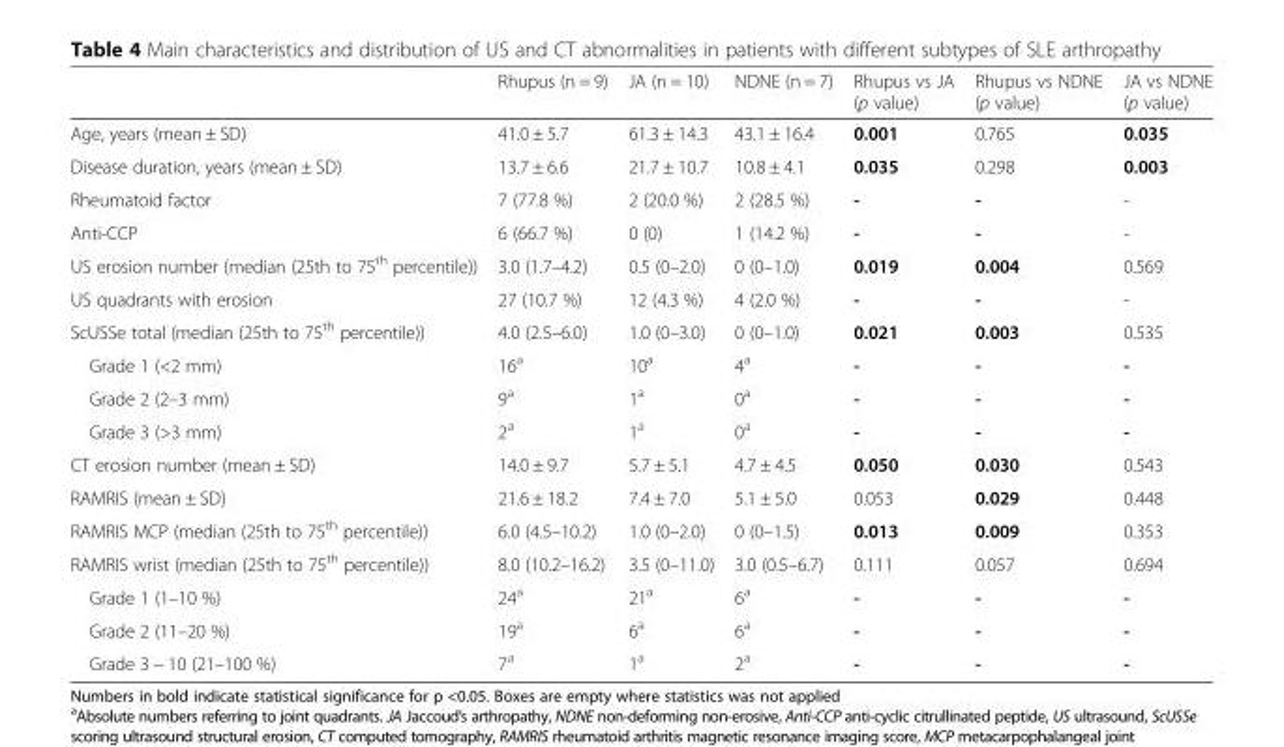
<table><thead><tr><td></td><td>Rhupus (n = 9)</td><td>JA (n = 10)</td><td>NDNE (n = 7)</td><td>Rhupus vs JA (p value)</td><td>Rhupus vs NDNE (p value)</td><td>JA vs NDNE (p value)</td></tr></thead><tbody><tr><td>Age, years (mean ± SD)</td><td>41.0 ± 5.7</td><td>61.3 ± 14.3</td><td>43.1 ± 16.4</td><td>0.001</td><td>0.765</td><td>0.035</td></tr><tr><td>Disease duration, years (mean ± SD)</td><td>13.7 ± 6.6</td><td>21.7 ± 10.7</td><td>10.8 ± 4.1</td><td>0.035</td><td>0.298</td><td>0.003</td></tr><tr><td>Rheumatoid factor</td><td>7 (77.8 %)</td><td>2 (20.0 %)</td><td>2 (28.5 %)</td><td>-</td><td>-</td><td>-</td></tr><tr><td>Anti-CCP</td><td>6 (66.7 %)</td><td>0 (0)</td><td>1 (14.2 %)</td><td>-</td><td>-</td><td>-</td></tr><tr><td>US erosion number (median (25th to 75<sup>th</sup> percentile))</td><td>3.0 (1.7–4.2)</td><td>0.5 (0–2.0)</td><td>0 (0–1.0)</td><td>0.019</td><td>0.004</td><td>0.569</td></tr><tr><td>US quadrants with erosion</td><td>27 (10.7 %)</td><td>12 (4.3 %)</td><td>4 (2.0 %)</td><td>-</td><td>-</td><td>-</td></tr><tr><td>ScUSSe total (median (25th to 75<sup>th</sup> percentile))</td><td>4.0 (2.5–6.0)</td><td>1.0 (0–3.0)</td><td>0 (0–1.0)</td><td>0.021</td><td>0.003</td><td>0.535</td></tr><tr><td>Grade 1 (&lt;2 mm)</td><td>16<sup>a</sup></td><td>10<sup>a</sup></td><td>4<sup>a</sup></td><td>-</td><td>-</td><td>-</td></tr><tr><td>Grade 2 (2–3 mm)</td><td>9<sup>a</sup></td><td>1<sup>a</sup></td><td>0<sup>a</sup></td><td>-</td><td>-</td><td>-</td></tr><tr><td>Grade 3 (&gt;3 mm)</td><td>2<sup>a</sup></td><td>1<sup>a</sup></td><td>0<sup>a</sup></td><td>-</td><td>-</td><td>-</td></tr><tr><td>CT erosion number (mean ± SD)</td><td>14.0 ± 9.7</td><td>5.7 ± 5.1</td><td>4.7 ± 4.5</td><td>0.050</td><td>0.030</td><td>0.543</td></tr><tr><td>RAMRIS (mean ± SD)</td><td>21.6 ± 18.2</td><td>7.4 ± 7.0</td><td>5.1 ± 5.0</td><td>0.053</td><td>0.029</td><td>0.448</td></tr><tr><td>RAMRIS MCP (median (25th to 75<sup>th</sup> percentile))</td><td>6.0 (4.5–10.2)</td><td>1.0 (0–2.0)</td><td>0 (0–1.5)</td><td>0.013</td><td>0.009</td><td>0.353</td></tr><tr><td>RAMRIS wrist (median (25th to 75<sup>th</sup> percentile))</td><td>8.0 (10.2–16.2)</td><td>3.5 (0–11.0)</td><td>3.0 (0.5–6.7)</td><td>0.111</td><td>0.057</td><td>0.694</td></tr><tr><td>Grade 1 (1–10 %)</td><td>24<sup>a</sup></td><td>21<sup>a</sup></td><td>6<sup>a</sup></td><td>-</td><td>-</td><td>-</td></tr><tr><td>Grade 2 (11–20 %)</td><td>19<sup>a</sup></td><td>6<sup>a</sup></td><td>6<sup>a</sup></td><td>-</td><td>-</td><td>-</td></tr><tr><td>Grade 3 − 10 (21–100 %)</td><td>7<sup>a</sup></td><td>1<sup>a</sup></td><td>2<sup>a</sup></td><td>-</td><td>-</td><td>-</td></tr></tbody></table>